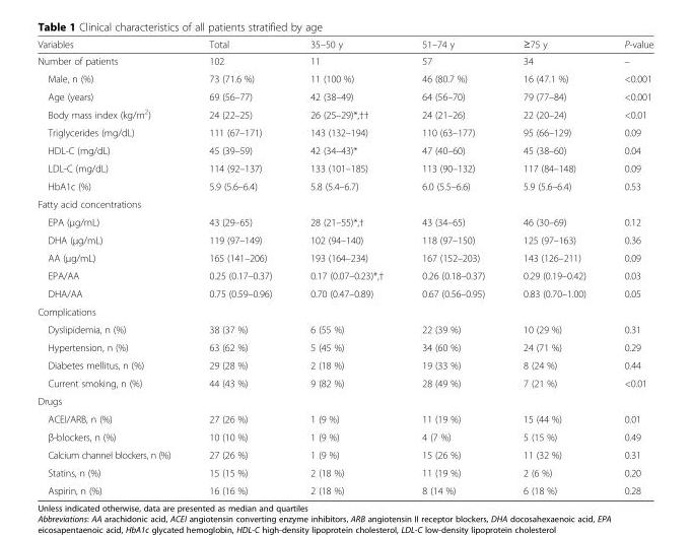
<table><thead><tr><td>Variables</td><td>Total</td><td>35–50 y</td><td>51–74 y</td><td>≥75 y</td><td>P-value</td></tr></thead><tbody><tr><td>Number of patients</td><td>102</td><td>11</td><td>57</td><td>34</td><td>–</td></tr><tr><td>Male, n (%)</td><td>73 (71.6 %)</td><td>11 (100 %)</td><td>46 (80.7 %)</td><td>16 (47.1 %)</td><td>&lt;0.001</td></tr><tr><td>Age (years)</td><td>69 (56–77)</td><td>42 (38–49)</td><td>64 (56–70)</td><td>79 (77–84)</td><td>&lt;0.001</td></tr><tr><td>Body mass index (kg/m<sup>2</sup>)</td><td>24 (22–25)</td><td>26 (25–29)*,††</td><td>24 (21–26)</td><td>22 (20–24)</td><td>&lt;0.01</td></tr><tr><td>Triglycerides (mg/dL)</td><td>111 (67–171)</td><td>143 (132–194)</td><td>110 (63–177)</td><td>95 (66–129)</td><td>0.09</td></tr><tr><td>HDL-C (mg/dL)</td><td>45 (39–59)</td><td>42 (34–43)*</td><td>47 (40–60)</td><td>45 (38–60)</td><td>0.04</td></tr><tr><td>LDL-C (mg/dL)</td><td>114 (92–137)</td><td>133 (101–185)</td><td>113 (90–132)</td><td>117 (84–148)</td><td>0.09</td></tr><tr><td>HbA1c (%)</td><td>5.9 (5.6–6.4)</td><td>5.8 (5.4–6.7)</td><td>6.0 (5.5–6.6)</td><td>5.9 (5.6–6.4)</td><td>0.53</td></tr><tr><td colspan="6">Fatty acid concentrations</td></tr><tr><td>EPA (μg/mL)</td><td>43 (29–65)</td><td>28 (21–55)*,†</td><td>43 (34–65)</td><td>46 (30–69)</td><td>0.12</td></tr><tr><td>DHA (μg/mL)</td><td>119 (97–149)</td><td>102 (94–140)</td><td>118 (97–150)</td><td>125 (97–163)</td><td>0.36</td></tr><tr><td>AA (μg/mL)</td><td>165 (141–206)</td><td>193 (164–234)</td><td>167 (152–203)</td><td>143 (126–211)</td><td>0.09</td></tr><tr><td>EPA/AA</td><td>0.25 (0.17–0.37)</td><td>0.17 (0.07–0.23)*,†</td><td>0.26 (0.18–0.37)</td><td>0.29 (0.19–0.42)</td><td>0.03</td></tr><tr><td>DHA/AA</td><td>0.75 (0.59–0.96)</td><td>0.70 (0.47–0.89)</td><td>0.67 (0.56–0.95)</td><td>0.83 (0.70–1.00)</td><td>0.05</td></tr><tr><td colspan="6">Complications</td></tr><tr><td>Dyslipidemia, n (%)</td><td>38 (37 %)</td><td>6 (55 %)</td><td>22 (39 %)</td><td>10 (29 %)</td><td>0.31</td></tr><tr><td>Hypertension, n (%)</td><td>63 (62 %)</td><td>5 (45 %)</td><td>34 (60 %)</td><td>24 (71 %)</td><td>0.29</td></tr><tr><td>Diabetes mellitus, n (%)</td><td>29 (28 %)</td><td>2 (18 %)</td><td>19 (33 %)</td><td>8 (24 %)</td><td>0.44</td></tr><tr><td>Current smoking, n (%)</td><td>44 (43 %)</td><td>9 (82 %)</td><td>28 (49 %)</td><td>7 (21 %)</td><td>&lt;0.01</td></tr><tr><td colspan="6">Drugs</td></tr><tr><td>ACEI/ARB, n (%)</td><td>27 (26 %)</td><td>1 (9 %)</td><td>11 (19 %)</td><td>15 (44 %)</td><td>0.01</td></tr><tr><td>β-blockers, n (%)</td><td>10 (10 %)</td><td>1 (9 %)</td><td>4 (7 %)</td><td>5 (15 %)</td><td>0.49</td></tr><tr><td>Calcium channel blockers, n (%)</td><td>27 (26 %)</td><td>1 (9 %)</td><td>15 (26 %)</td><td>11 (32 %)</td><td>0.31</td></tr><tr><td>Statins, n (%)</td><td>15 (15 %)</td><td>2 (18 %)</td><td>11 (19 %)</td><td>2 (6 %)</td><td>0.20</td></tr><tr><td>Aspirin, n (%)</td><td>16 (16 %)</td><td>2 (18 %)</td><td>8 (14 %)</td><td>6 (18 %)</td><td>0.28</td></tr></tbody></table>